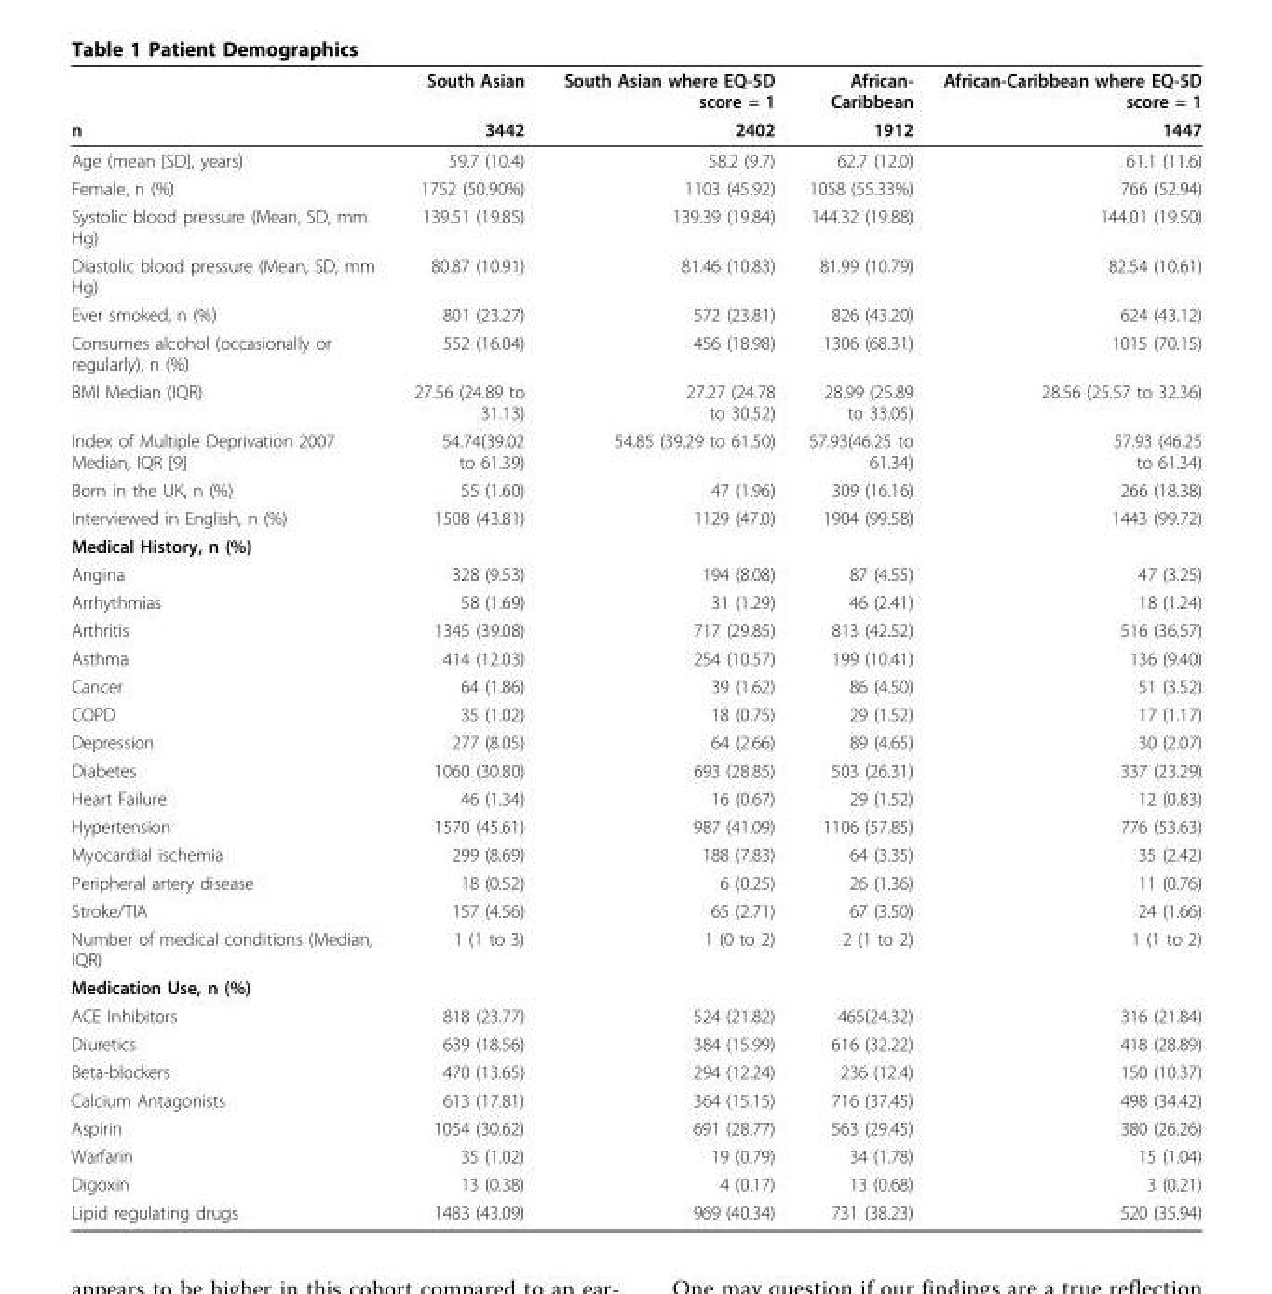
<table><thead><tr><td rowspan="2">n</td><td rowspan="2">South Asian 3442</td><td rowspan="2">South Asian where EQ-5D score = 1 2402</td><td rowspan="2">African- Caribbean 1912</td><td rowspan="2">African-Caribbean where EQ-5D score = 1 1447</td></tr><tr></tr></thead><tbody><tr><td>Age (mean [SD], years)</td><td>59.7 (10.4)</td><td>58.2 (9.7)</td><td>62.7 (12.0)</td><td>61.1 (11.6)</td></tr><tr><td>Female, n (%)</td><td>1752 (50.90%)</td><td>1103 (45.92)</td><td>1058 (55.33%)</td><td>766 (52.94)</td></tr><tr><td>Systolic blood pressure (Mean, SD, mm Hg)</td><td>139.51 (19.85)</td><td>139.39 (19.84)</td><td>144.32 (19.88)</td><td>144.01 (19.50)</td></tr><tr><td>Diastolic blood pressure (Mean, SD, mm Hg)</td><td>80.87 (10.91)</td><td>81.46 (10.83)</td><td>81.99 (10.79)</td><td>82.54 (10.61)</td></tr><tr><td>Ever smoked, n (%)</td><td>801 (23.27)</td><td>572 (23.81)</td><td>826 (43.20)</td><td>624 (43.12)</td></tr><tr><td>Consumes alcohol (occasionally or regularly), n (%)</td><td>552 (16.04)</td><td>456 (18.98)</td><td>1306 (68.31)</td><td>1015 (70.15)</td></tr><tr><td>BMI Median (IQR)</td><td>27.56 (24.89 to 31.13)</td><td>27.27 (24.78 to 30.52)</td><td>28.99 (25.89 to 33.05)</td><td>28.56 (25.57 to 32.36)</td></tr><tr><td>Index of Multiple Deprivation 2007 Median, IQR [9]</td><td>54.74(39.02 to 61.39)</td><td>54.85 (39.29 to 61.50)</td><td>57.93(46.25 to 61.34)</td><td>57.93 (46.25 to 61.34)</td></tr><tr><td>Born in the UK, n (%)</td><td>55 (1.60)</td><td>47 (1.96)</td><td>309 (16.16)</td><td>266 (18.38)</td></tr><tr><td>Interviewed in English, n (%)</td><td>1508 (43.81)</td><td>1129 (47.0)</td><td>1904 (99.58)</td><td>1443 (99.72)</td></tr><tr><td colspan="5">Medical History, n (%)</td></tr><tr><td>Angina</td><td>328 (9.53)</td><td>194 (8.08)</td><td>87 (4.55)</td><td>47 (3.25)</td></tr><tr><td>Arrhythmias</td><td>58 (1.69)</td><td>31 (1.29)</td><td>46 (2.41)</td><td>18 (1.24)</td></tr><tr><td>Arthritis</td><td>1345 (39.08)</td><td>717 (29.85)</td><td>813 (42.52)</td><td>516 (36.57)</td></tr><tr><td>Asthma</td><td>414 (12.03)</td><td>254 (10.57)</td><td>199 (10.41)</td><td>136 (9.40)</td></tr><tr><td>Cancer</td><td>64 (1.86)</td><td>39 (1.62)</td><td>86 (4.50)</td><td>51 (3.52)</td></tr><tr><td>COPD</td><td>35 (1.02)</td><td>18 (0.75)</td><td>29 (1.52)</td><td>17 (1.17)</td></tr><tr><td>Depression</td><td>277 (8.05)</td><td>64 (2.66)</td><td>89 (4.65)</td><td>30 (2.07)</td></tr><tr><td>Diabetes</td><td>1060 (30.80)</td><td>693 (28.85)</td><td>503 (26.31)</td><td>337 (23.29)</td></tr><tr><td>Heart Failure</td><td>46 (1.34)</td><td>16 (0.67)</td><td>29 (1.52)</td><td>12 (0.83)</td></tr><tr><td>Hypertension</td><td>1570 (45.61)</td><td>987 (41.09)</td><td>1106 (57.85)</td><td>776 (53.63)</td></tr><tr><td>Myocardial ischemia</td><td>299 (8.69)</td><td>188 (7.83)</td><td>64 (3.35)</td><td>35 (2.42)</td></tr><tr><td>Peripheral artery disease</td><td>18 (0.52)</td><td>6 (0.25)</td><td>26 (1.36)</td><td>11 (0.76)</td></tr><tr><td>Stroke/TIA</td><td>157 (4.56)</td><td>65 (2.71)</td><td>67 (3.50)</td><td>24 (1.66)</td></tr><tr><td>Number of medical conditions (Median, IQR)</td><td>1 (1 to 3)</td><td>1 (0 to 2)</td><td>2 (1 to 2)</td><td>1 (1 to 2)</td></tr><tr><td colspan="5">Medication Use, n (%)</td></tr><tr><td>ACE Inhibitors</td><td>818 (23.77)</td><td>524 (21.82)</td><td>465(24.32)</td><td>316 (21.84)</td></tr><tr><td>Diuretics</td><td>639 (18.56)</td><td>384 (15.99)</td><td>616 (32.22)</td><td>418 (28.89)</td></tr><tr><td>Beta-blockers</td><td>470 (13.65)</td><td>294 (12.24)</td><td>236 (12.4)</td><td>150 (10.37)</td></tr><tr><td>Calcium Antagonists</td><td>613 (17.81)</td><td>364 (15.15)</td><td>716 (37.45)</td><td>498 (34.42)</td></tr><tr><td>Aspirin</td><td>1054 (30.62)</td><td>691 (28.77)</td><td>563 (29.45)</td><td>380 (26.26)</td></tr><tr><td>Warfarin</td><td>35 (1.02)</td><td>19 (0.79)</td><td>34 (1.78)</td><td>15 (1.04)</td></tr><tr><td>Digoxin</td><td>13 (0.38)</td><td>4 (0.17)</td><td>13 (0.68)</td><td>3 (0.21)</td></tr><tr><td>Lipid regulating drugs</td><td>1483 (43.09)</td><td>969 (40.34)</td><td>731 (38.23)</td><td>520 (35.94)</td></tr></tbody></table>